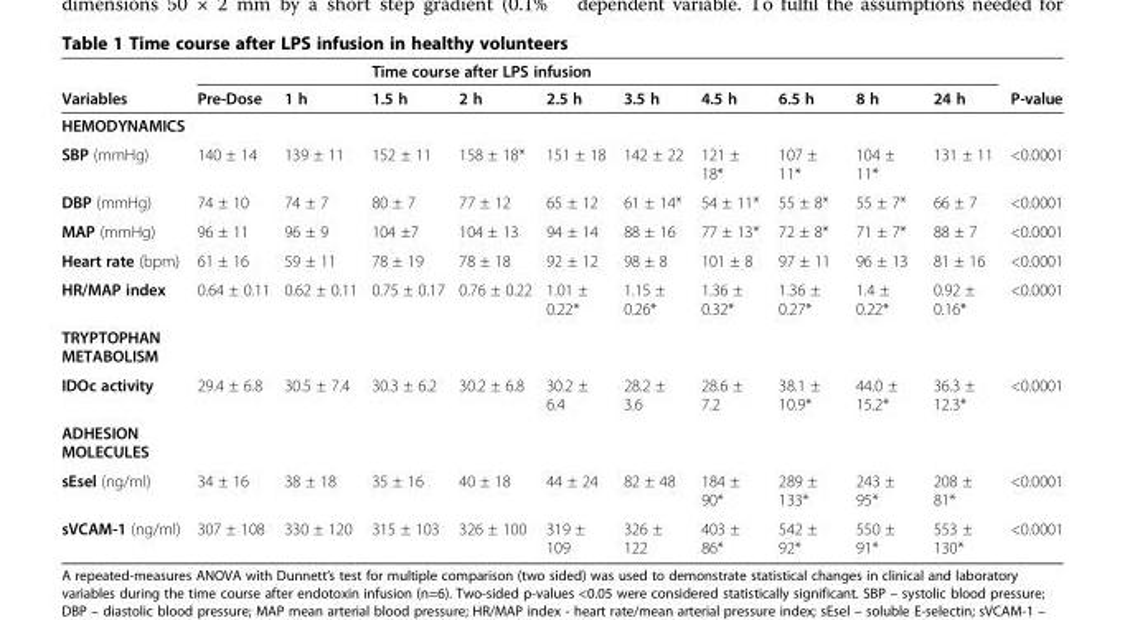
<table><thead><tr><td rowspan="2">Variables</td><td rowspan="2">Pre-Dose</td><td rowspan="2">1 h</td><td colspan="5">Time course after LPS infusion</td><td rowspan="2">6.5 h</td><td rowspan="2">8 h</td><td rowspan="2">24 h</td><td rowspan="2">P-value</td></tr><tr><td>1.5 h</td><td>2 h</td><td>2.5 h</td><td>3.5 h</td><td>4.5 h</td></tr></thead><tbody><tr><td colspan="12">HEMODYNAMICS</td></tr><tr><td>SBP (mmHg)</td><td>140 ± 14</td><td>139 ± 11</td><td>152 ± 11</td><td>158 ± 18*</td><td>151 ± 18</td><td>142 ± 22</td><td>121 ± 18*</td><td>107 ± 11*</td><td>104 ± 11*</td><td>131 ± 11</td><td>&lt;0.0001</td></tr><tr><td>DBP (mmHg)</td><td>74 ± 10</td><td>74 ± 7</td><td>80 ± 7</td><td>77 ± 12</td><td>65 ± 12</td><td>61 ± 14*</td><td>54 ± 11*</td><td>55 ± 8*</td><td>55 ± 7*</td><td>66 ± 7</td><td>&lt;0.0001</td></tr><tr><td>MAP (mmHg)</td><td>96 ± 11</td><td>96 ± 9</td><td>104 ±7</td><td>104 ± 13</td><td>94 ± 14</td><td>88 ± 16</td><td>77 ± 13*</td><td>72 ± 8*</td><td>71 ± 7*</td><td>88 ± 7</td><td>&lt;0.0001</td></tr><tr><td>Heart rate (bpm)</td><td>61 ± 16</td><td>59 ± 11</td><td>78 ± 19</td><td>78 ± 18</td><td>92 ± 12</td><td>98 ± 8</td><td>101 ± 8</td><td>97 ± 11</td><td>96 ± 13</td><td>81 ± 16</td><td>&lt;0.0001</td></tr><tr><td>HR/MAP index</td><td>0.64 ± 0.11</td><td>0.62 ± 0.11</td><td>0.75 ± 0.17</td><td>0.76 ± 0.22</td><td>1.01 ± 0.22*</td><td>1.15 ± 0.26*</td><td>1.36 ± 0.32*</td><td>1.36 ± 0.27*</td><td>1.4 ± 0.22*</td><td>0.92 ± 0.16*</td><td>&lt;0.0001</td></tr><tr><td colspan="12">TRYPTOPHAN METABOLISM</td></tr><tr><td>IDOc activity</td><td>29.4 ± 6.8</td><td>30.5 ± 7.4</td><td>30.3 ± 6.2</td><td>30.2 ± 6.8</td><td>30.2 ± 6.4</td><td>28.2 ± 3.6</td><td>28.6 ± 7.2</td><td>38.1 ± 10.9*</td><td>44.0 ± 15.2*</td><td>36.3 ± 12.3*</td><td>&lt;0.0001</td></tr><tr><td colspan="12">ADHESION MOLECULES</td></tr><tr><td>sEsel (ng/ml)</td><td>34 ± 16</td><td>38 ± 18</td><td>35 ± 16</td><td>40 ± 18</td><td>44 ± 24</td><td>82 ± 48</td><td>184 ± 90*</td><td>289 ± 133*</td><td>243 ± 95*</td><td>208 ± 81*</td><td>&lt;0.0001</td></tr><tr><td>sVCAM-1 (ng/ml)</td><td>307 ± 108</td><td>330 ± 120</td><td>315 ± 103</td><td>326 ± 100</td><td>319 ± 109</td><td>326 ± 122</td><td>403 ± 86*</td><td>542 ± 92*</td><td>550 ± 91*</td><td>553 ± 130*</td><td>&lt;0.0001</td></tr></tbody></table>